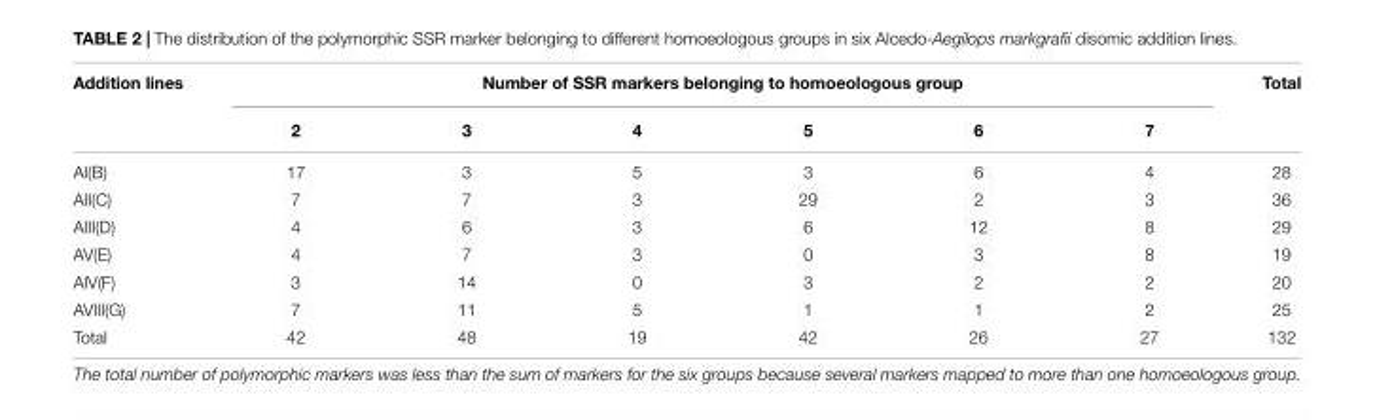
<table><thead><tr><td rowspan="2">Addition lines</td><td colspan="6">Number of SSR markers belonging to homoeologous group</td><td rowspan="2">Total</td></tr><tr><td>2</td><td>3</td><td>4</td><td>5</td><td>6</td><td>7</td></tr></thead><tbody><tr><td>AI(B)</td><td>17</td><td>3</td><td>5</td><td>3</td><td>6</td><td>4</td><td>28</td></tr><tr><td>AII(C)</td><td>7</td><td>7</td><td>3</td><td>29</td><td>2</td><td>3</td><td>36</td></tr><tr><td>AIII(D)</td><td>4</td><td>6</td><td>3</td><td>6</td><td>12</td><td>8</td><td>29</td></tr><tr><td>AV(E)</td><td>4</td><td>7</td><td>3</td><td>0</td><td>3</td><td>8</td><td>19</td></tr><tr><td>AIV(F)</td><td>3</td><td>14</td><td>0</td><td>3</td><td>2</td><td>2</td><td>20</td></tr><tr><td>AVIII(G)</td><td>7</td><td>11</td><td>5</td><td>1</td><td>1</td><td>2</td><td>25</td></tr><tr><td>Total</td><td>42</td><td>48</td><td>19</td><td>42</td><td>26</td><td>27</td><td>132</td></tr></tbody></table>